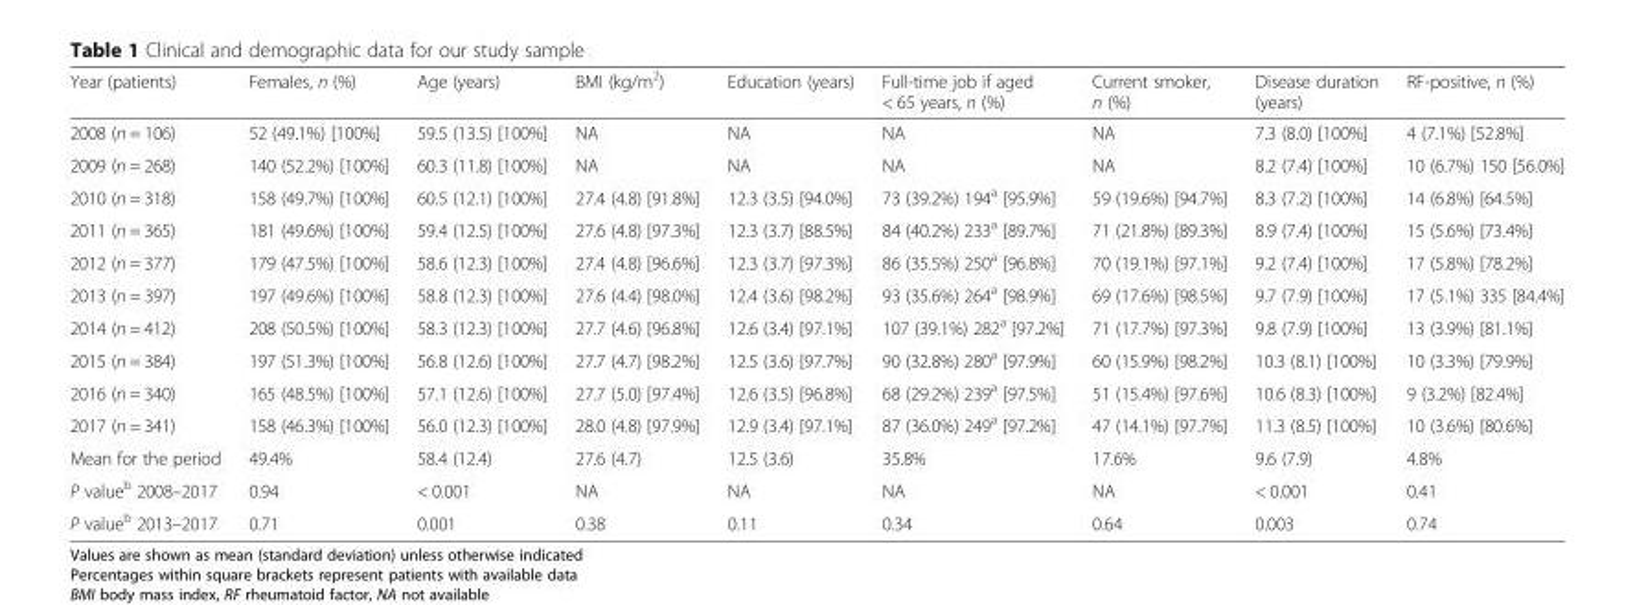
<table><thead><tr><td>Year (patients)</td><td>Females, n (%)</td><td>Age (years)</td><td>BMI (kg/m<sup>2</sup>)</td><td>Education (years)</td><td>Full-time job if aged &lt; 65 years, n (%)</td><td>Current smoker, n (%)</td><td>Disease duration (years)</td><td>RF-positive, n (%)</td></tr></thead><tbody><tr><td>2008 (n = 106)</td><td>52 (49.1%) [100%]</td><td>59.5 (13.5) [100%]</td><td>NA</td><td>NA</td><td>NA</td><td>NA</td><td>7.3 (8.0) [100%]</td><td>4 (7.1%) [52.8%]</td></tr><tr><td>2009 (n = 268)</td><td>140 (52.2%) [100%]</td><td>60.3 (11.8) [100%]</td><td>NA</td><td>NA</td><td>NA</td><td>NA</td><td>8.2 (7.4) [100%]</td><td>10 (6.7%) 150 [56.0%]</td></tr><tr><td>2010 (n = 318)</td><td>158 (49.7%) [100%]</td><td>60.5 (12.1) [100%]</td><td>27.4 (4.8) [91.8%]</td><td>12.3 (3.5) [94.0%]</td><td>73 (39.2%) 194<sup>a</sup> [95.9%]</td><td>59 (19.6%) [94.7%]</td><td>8.3 (7.2) [100%]</td><td>14 (6.8%) [64.5%]</td></tr><tr><td>2011 (n = 365)</td><td>181 (49.6%) [100%]</td><td>59.4 (12.5) [100%]</td><td>27.6 (4.8) [97.3%]</td><td>12.3 (3.7) [88.5%]</td><td>84 (40.2%) 233<sup>a</sup> [89.7%]</td><td>71 (21.8%) [89.3%]</td><td>8.9 (7.4) [100%]</td><td>15 (5.6%) [73.4%]</td></tr><tr><td>2012 (n = 377)</td><td>179 (47.5%) [100%]</td><td>58.6 (12.3) [100%]</td><td>27.4 (4.8) [96.6%]</td><td>12.3 (3.7) [97.3%]</td><td>86 (35.5%) 250<sup>a</sup> [96.8%]</td><td>70 (19.1%) [97.1%]</td><td>9.2 (7.4) [100%]</td><td>17 (5.8%) [78.2%]</td></tr><tr><td>2013 (n = 397)</td><td>197 (49.6%) [100%]</td><td>58.8 (12.3) [100%]</td><td>27.6 (4.4) [98.0%]</td><td>12.4 (3.6) [98.2%]</td><td>93 (35.6%) 264<sup>a</sup> [98.9%]</td><td>69 (17.6%) [98.5%]</td><td>9.7 (7.9) [100%]</td><td>17 (5.1%) 335 [84.4%]</td></tr><tr><td>2014 (n = 412)</td><td>208 (50.5%) [100%]</td><td>58.3 (12.3) [100%]</td><td>27.7 (4.6) [96.8%]</td><td>12.6 (3.4) [97.1%]</td><td>107 (39.1%) 282<sup>a</sup> [97.2%]</td><td>71 (17.7%) [97.3%]</td><td>9.8 (7.9) [100%]</td><td>13 (3.9%) [81.1%]</td></tr><tr><td>2015 (n = 384)</td><td>197 (51.3%) [100%]</td><td>56.8 (12.6) [100%]</td><td>27.7 (4.7) [98.2%]</td><td>12.5 (3.6) [97.7%]</td><td>90 (32.8%) 280<sup>a</sup> [97.9%]</td><td>60 (15.9%) [98.2%]</td><td>10.3 (8.1) [100%]</td><td>10 (3.3%) [79.9%]</td></tr><tr><td>2016 (n = 340)</td><td>165 (48.5%) [100%]</td><td>57.1 (12.6) [100%]</td><td>27.7 (5.0) [97.4%]</td><td>12.6 (3.5) [96.8%]</td><td>68 (29.2%) 239<sup>a</sup> [97.5%]</td><td>51 (15.4%) [97.6%]</td><td>10.6 (8.3) [100%]</td><td>9 (3.2%) [82.4%]</td></tr><tr><td>2017 (n = 341)</td><td>158 (46.3%) [100%]</td><td>56.0 (12.3) [100%]</td><td>28.0 (4.8) [97.9%]</td><td>12.9 (3.4) [97.1%]</td><td>87 (36.0%) 249<sup>a</sup> [97.2%]</td><td>47 (14.1%) [97.7%]</td><td>11.3 (8.5) [100%]</td><td>10 (3.6%) [80.6%]</td></tr><tr><td>Mean for the period</td><td>49.4%</td><td>58.4 (12.4)</td><td>27.6 (4.7)</td><td>12.5 (3.6)</td><td>35.8%</td><td>17.6%</td><td>9.6 (7.9)</td><td>4.8%</td></tr><tr><td>P value<sup>b</sup> 2008–2017</td><td>0.94</td><td>&lt; 0.001</td><td>NA</td><td>NA</td><td>NA</td><td>NA</td><td>&lt; 0.001</td><td>0.41</td></tr><tr><td>P value<sup>b</sup> 2013–2017</td><td>0.71</td><td>0.001</td><td>0.38</td><td>0.11</td><td>0.34</td><td>0.64</td><td>0.003</td><td>0.74</td></tr></tbody></table>